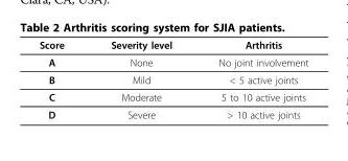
<table><thead><tr><td>Score</td><td>Severity level</td><td>Arthritis</td></tr></thead><tbody><tr><td>A</td><td>None</td><td>No joint involvement</td></tr><tr><td>B</td><td>Mild</td><td>&lt; 5 active joints</td></tr><tr><td>C</td><td>Moderate</td><td>5 to 10 active joints</td></tr><tr><td>D</td><td>Severe</td><td>&gt; 10 active joints</td></tr></tbody></table>